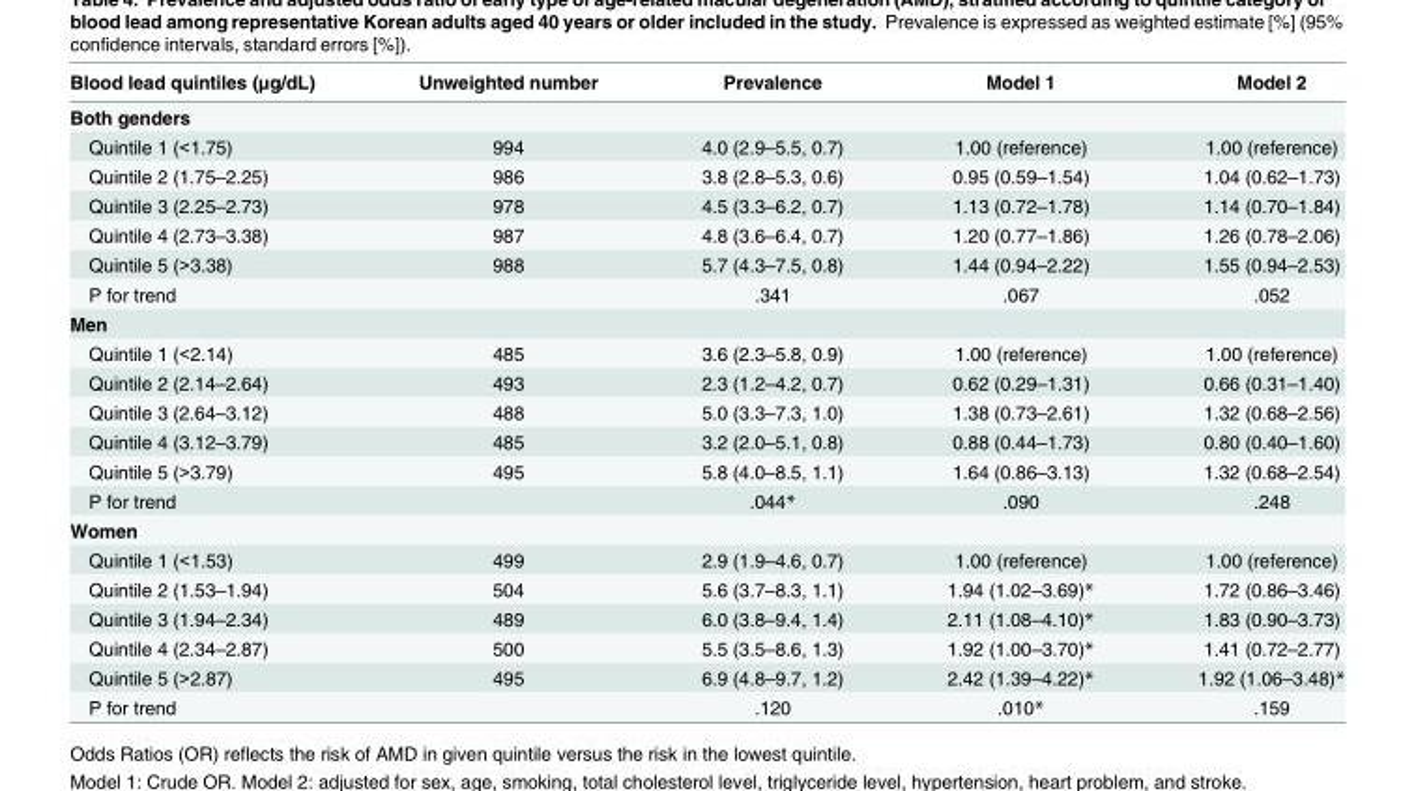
<table><thead><tr><td>Blood lead quintiles (μg/dL)</td><td>Unweighted number</td><td>Prevalence</td><td>Model 1</td><td>Model 2</td></tr></thead><tbody><tr><td colspan="5">Both genders</td></tr><tr><td>Quintile 1 (&lt;1.75)</td><td>994</td><td>4.0 (2.9–5.5, 0.7)</td><td>1.00 (reference)</td><td>1.00 (reference)</td></tr><tr><td>Quintile 2 (1.75–2.25)</td><td>986</td><td>3.8 (2.8–5.3, 0.6)</td><td>0.95 (0.59–1.54)</td><td>1.04 (0.62–1.73)</td></tr><tr><td>Quintile 3 (2.25–2.73)</td><td>978</td><td>4.5 (3.3–6.2, 0.7)</td><td>1.13 (0.72–1.78)</td><td>1.14 (0.70–1.84)</td></tr><tr><td>Quintile 4 (2.73–3.38)</td><td>987</td><td>4.8 (3.6–6.4, 0.7)</td><td>1.20 (0.77–1.86)</td><td>1.26 (0.78–2.06)</td></tr><tr><td>Quintile 5 (&gt;3.38)</td><td>988</td><td>5.7 (4.3–7.5, 0.8)</td><td>1.44 (0.94–2.22)</td><td>1.55 (0.94–2.53)</td></tr><tr><td>P for trend</td><td></td><td>.341</td><td>.067</td><td>.052</td></tr><tr><td colspan="5">Men</td></tr><tr><td>Quintile 1 (&lt;2.14)</td><td>485</td><td>3.6 (2.3–5.8, 0.9)</td><td>1.00 (reference)</td><td>1.00 (reference)</td></tr><tr><td>Quintile 2 (2.14–2.64)</td><td>493</td><td>2.3 (1.2–4.2, 0.7)</td><td>0.62 (0.29–1.31)</td><td>0.66 (0.31–1.40)</td></tr><tr><td>Quintile 3 (2.64–3.12)</td><td>488</td><td>5.0 (3.3–7.3, 1.0)</td><td>1.38 (0.73–2.61)</td><td>1.32 (0.68–2.56)</td></tr><tr><td>Quintile 4 (3.12–3.79)</td><td>485</td><td>3.2 (2.0–5.1, 0.8)</td><td>0.88 (0.44–1.73)</td><td>0.80 (0.40–1.60)</td></tr><tr><td>Quintile 5 (&gt;3.79)</td><td>495</td><td>5.8 (4.0–8.5, 1.1)</td><td>1.64 (0.86–3.13)</td><td>1.32 (0.68–2.54)</td></tr><tr><td>P for trend</td><td></td><td>.044*</td><td>.090</td><td>.248</td></tr><tr><td colspan="5">Women</td></tr><tr><td>Quintile 1 (&lt;1.53)</td><td>499</td><td>2.9 (1.9–4.6, 0.7)</td><td>1.00 (reference)</td><td>1.00 (reference)</td></tr><tr><td>Quintile 2 (1.53–1.94)</td><td>504</td><td>5.6 (3.7–8.3, 1.1)</td><td>1.94 (1.02–3.69)*</td><td>1.72 (0.86–3.46)</td></tr><tr><td>Quintile 3 (1.94–2.34)</td><td>489</td><td>6.0 (3.8–9.4, 1.4)</td><td>2.11 (1.08–4.10)*</td><td>1.83 (0.90–3.73)</td></tr><tr><td>Quintile 4 (2.34–2.87)</td><td>500</td><td>5.5 (3.5–8.6, 1.3)</td><td>1.92 (1.00–3.70)*</td><td>1.41 (0.72–2.77)</td></tr><tr><td>Quintile 5 (&gt;2.87)</td><td>495</td><td>6.9 (4.8–9.7, 1.2)</td><td>2.42 (1.39–4.22)*</td><td>1.92 (1.06–3.48)*</td></tr><tr><td>P for trend</td><td></td><td>.120</td><td>.010*</td><td>.159</td></tr></tbody></table>